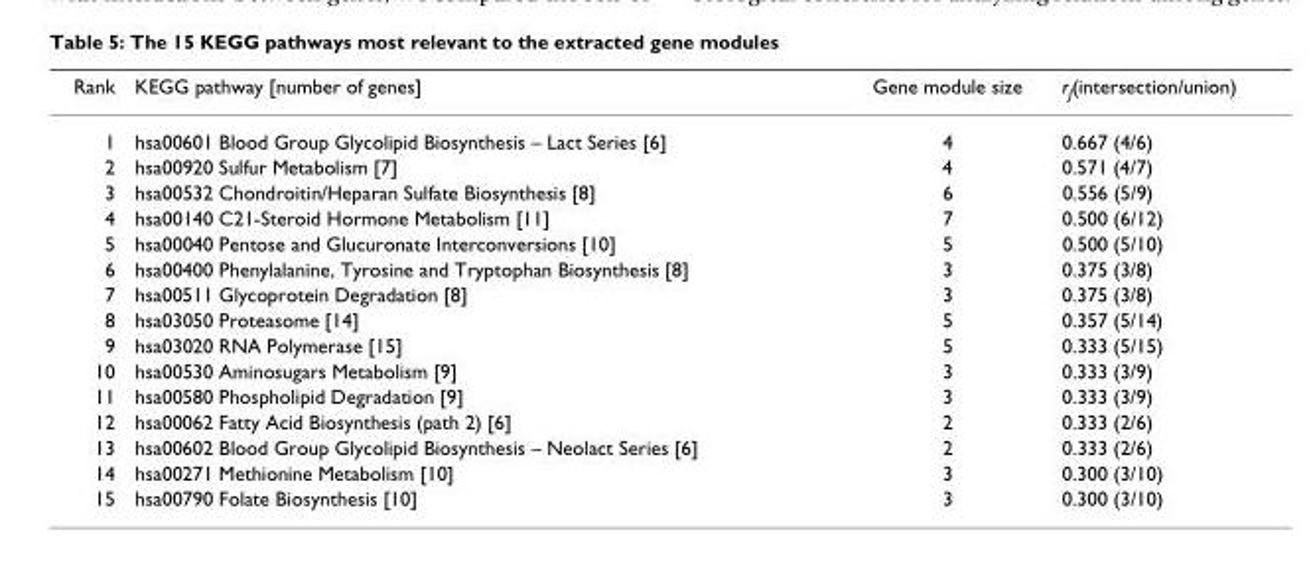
<table><thead><tr><td>Rank</td><td>KEGG pathway [number of genes]</td><td>Gene module size</td><td>r<sub>J</sub>(intersection/union)</td></tr></thead><tbody><tr><td>1</td><td>hsa00601 Blood Group Glycolipid Biosynthesis – Lact Series [6]</td><td>4</td><td>0.667 (4/6)</td></tr><tr><td>2</td><td>hsa00920 Sulfur Metabolism [7]</td><td>4</td><td>0.571 (4/7)</td></tr><tr><td>3</td><td>hsa00532 Chondroitin/Heparan Sulfate Biosynthesis [8]</td><td>6</td><td>0.556 (5/9)</td></tr><tr><td>4</td><td>hsa00140 C21-Steroid Hormone Metabolism [11]</td><td>7</td><td>0.500 (6/12)</td></tr><tr><td>5</td><td>hsa00040 Pentose and Glucuronate Interconversions [10]</td><td>5</td><td>0.500 (5/10)</td></tr><tr><td>6</td><td>hsa00400 Phenylalanine, Tyrosine and Tryptophan Biosynthesis [8]</td><td>3</td><td>0.375 (3/8)</td></tr><tr><td>7</td><td>hsa00511 Glycoprotein Degradation [8]</td><td>3</td><td>0.375 (3/8)</td></tr><tr><td>8</td><td>hsa03050 Proteasome [14]</td><td>5</td><td>0.357 (5/14)</td></tr><tr><td>9</td><td>hsa03020 RNA Polymerase [15]</td><td>5</td><td>0.333 (5/15)</td></tr><tr><td>10</td><td>hsa00530 Aminosugars Metabolism [9]</td><td>3</td><td>0.333 (3/9)</td></tr><tr><td>11</td><td>hsa00580 Phospholipid Degradation [9]</td><td>3</td><td>0.333 (3/9)</td></tr><tr><td>12</td><td>hsa00062 Fatty Acid Biosynthesis (path 2) [6]</td><td>2</td><td>0.333 (2/6)</td></tr><tr><td>13</td><td>hsa00602 Blood Group Glycolipid Biosynthesis – Neolact Series [6]</td><td>2</td><td>0.333 (2/6)</td></tr><tr><td>14</td><td>hsa00271 Methionine Metabolism [10]</td><td>3</td><td>0.300 (3/10)</td></tr><tr><td>15</td><td>hsa00790 Folate Biosynthesis [10]</td><td>3</td><td>0.300 (3/10)</td></tr></tbody></table>